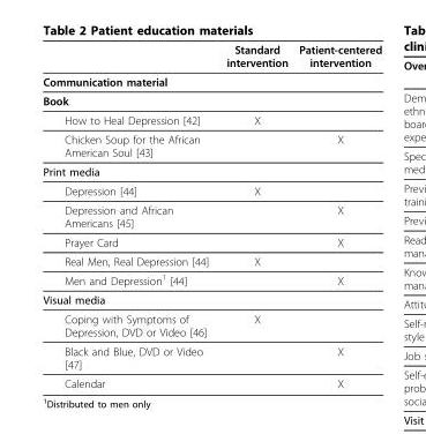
<table><thead><tr><td></td><td>Standard intervention</td><td>Patient-centered intervention</td></tr></thead><tbody><tr><td colspan="3">Communication material</td></tr><tr><td colspan="3">Book</td></tr><tr><td>How to Heal Depression [42]</td><td>X</td><td></td></tr><tr><td>Chicken Soup for the African American Soul [43]</td><td></td><td>X</td></tr><tr><td colspan="3">Print media</td></tr><tr><td>Depression [44]</td><td>X</td><td></td></tr><tr><td>Depression and African Americans [45]</td><td></td><td>X</td></tr><tr><td>Prayer Card</td><td></td><td>X</td></tr><tr><td>Real Men, Real Depression [44]</td><td>X</td><td></td></tr><tr><td>Men and Depression1 [44]</td><td></td><td>X</td></tr><tr><td colspan="3">Visual media</td></tr><tr><td>Coping with Symptoms of Depression, DVD or Video [46]</td><td>X</td><td></td></tr><tr><td>Black and Blue, DVD or Video [47]</td><td></td><td>X</td></tr><tr><td>Calendar</td><td></td><td>X</td></tr></tbody></table>